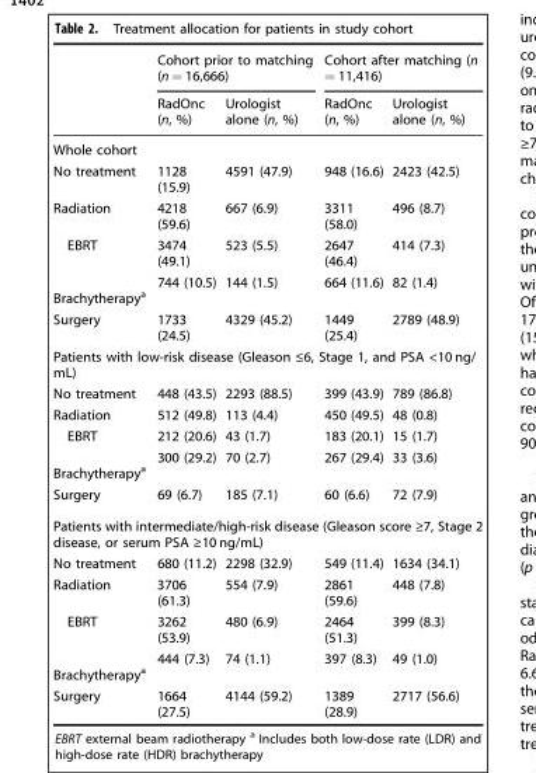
<table><thead><tr><td rowspan="2"></td><td colspan="2">Cohort prior to matching (n = 16,666)</td><td colspan="2">Cohort after matching (n = 11,416)</td></tr><tr><td>RadOnc (n, %)</td><td>Urologist alone (n, %)</td><td>RadOnc (n, %)</td><td>Urologist alone (n, %)</td></tr></thead><tbody><tr><td colspan="5">Whole cohort</td></tr><tr><td>No treatment</td><td>1128 (15.9)</td><td>4591 (47.9)</td><td>948 (16.6)</td><td>2423 (42.5)</td></tr><tr><td>Radiation</td><td>4218 (59.6)</td><td>667 (6.9)</td><td>3311 (58.0)</td><td>496 (8.7)</td></tr><tr><td>EBRT</td><td>3474 (49.1)</td><td>523 (5.5)</td><td>2647 (46.4)</td><td>414 (7.3)</td></tr><tr><td>Brachytherapy<sup>a</sup></td><td>744 (10.5)</td><td>144 (1.5)</td><td>664 (11.6)</td><td>82 (1.4)</td></tr><tr><td>Surgery</td><td>1733 (24.5)</td><td>4329 (45.2)</td><td>1449 (25.4)</td><td>2789 (48.9)</td></tr><tr><td colspan="5">Patients with low-risk disease (Gleason ≤6, Stage 1, and PSA &lt;10 ng/ mL)</td></tr><tr><td>No treatment</td><td>448 (43.5)</td><td>2293 (88.5)</td><td>399 (43.9)</td><td>789 (86.8)</td></tr><tr><td>Radiation</td><td>512 (49.8)</td><td>113 (4.4)</td><td>450 (49.5)</td><td>48 (0.8)</td></tr><tr><td>EBRT</td><td>212 (20.6)</td><td>43 (1.7)</td><td>183 (20.1)</td><td>15 (1.7)</td></tr><tr><td>Brachytherapy<sup>a</sup></td><td>300 (29.2)</td><td>70 (2.7)</td><td>267 (29.4)</td><td>33 (3.6)</td></tr><tr><td>Surgery</td><td>69 (6.7)</td><td>185 (7.1)</td><td>60 (6.6)</td><td>72 (7.9)</td></tr><tr><td colspan="5">Patients with intermediate/high-risk disease (Gleason score ≥7, Stage 2 disease, or serum PSA ≥10 ng/mL)</td></tr><tr><td>No treatment</td><td>680 (11.2)</td><td>2298 (32.9)</td><td>549 (11.4)</td><td>1634 (34.1)</td></tr><tr><td>Radiation</td><td>3706 (61.3)</td><td>554 (7.9)</td><td>2861 (59.6)</td><td>448 (7.8)</td></tr><tr><td>EBRT</td><td>3262 (53.9)</td><td>480 (6.9)</td><td>2464 (51.3)</td><td>399 (8.3)</td></tr><tr><td>Brachytherapy<sup>a</sup></td><td>444 (7.3)</td><td>74 (1.1)</td><td>397 (8.3)</td><td>49 (1.0)</td></tr><tr><td>Surgery</td><td>1664 (27.5)</td><td>4144 (59.2)</td><td>1389 (28.9)</td><td>2717 (56.6)</td></tr></tbody></table>